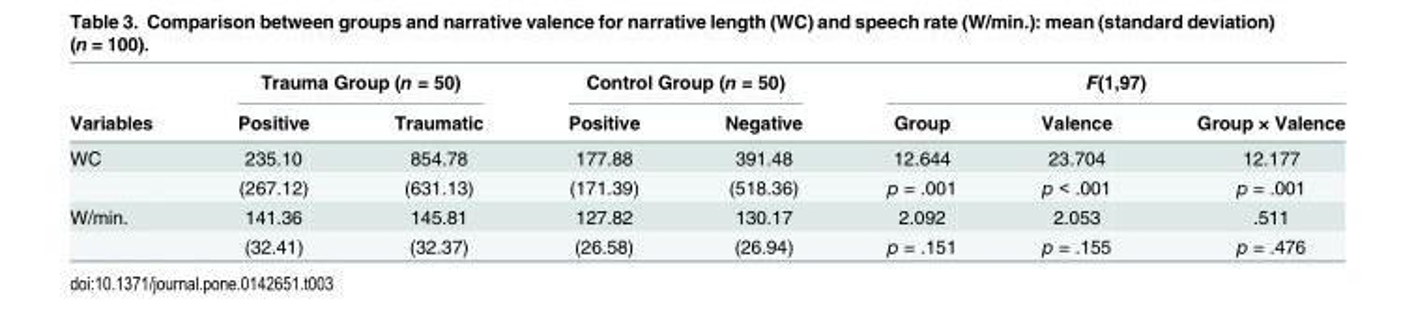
<table><thead><tr><td rowspan="2">Variables</td><td colspan="2">Trauma Group (n = 50)</td><td colspan="2">Control Group (n = 50)</td><td colspan="3">F(1,97)</td></tr><tr><td>Positive</td><td>Traumatic</td><td>Positive</td><td>Negative</td><td>Group</td><td>Valence</td><td>Group × Valence</td></tr></thead><tbody><tr><td rowspan="2">WC</td><td>235.10</td><td>854.78</td><td>177.88</td><td>391.48</td><td>12.644</td><td>23.704</td><td>12.177</td></tr><tr><td>(267.12)</td><td>(631.13)</td><td>(171.39)</td><td>(518.36)</td><td>p = .001</td><td>p &lt; .001</td><td>p = .001</td></tr><tr><td rowspan="2">W/min.</td><td>141.36</td><td>145.81</td><td>127.82</td><td>130.17</td><td>2.092</td><td>2.053</td><td>.511</td></tr><tr><td>(32.41)</td><td>(32.37)</td><td>(26.58)</td><td>(26.94)</td><td>p = .151</td><td>p = .155</td><td>p = .476</td></tr></tbody></table>